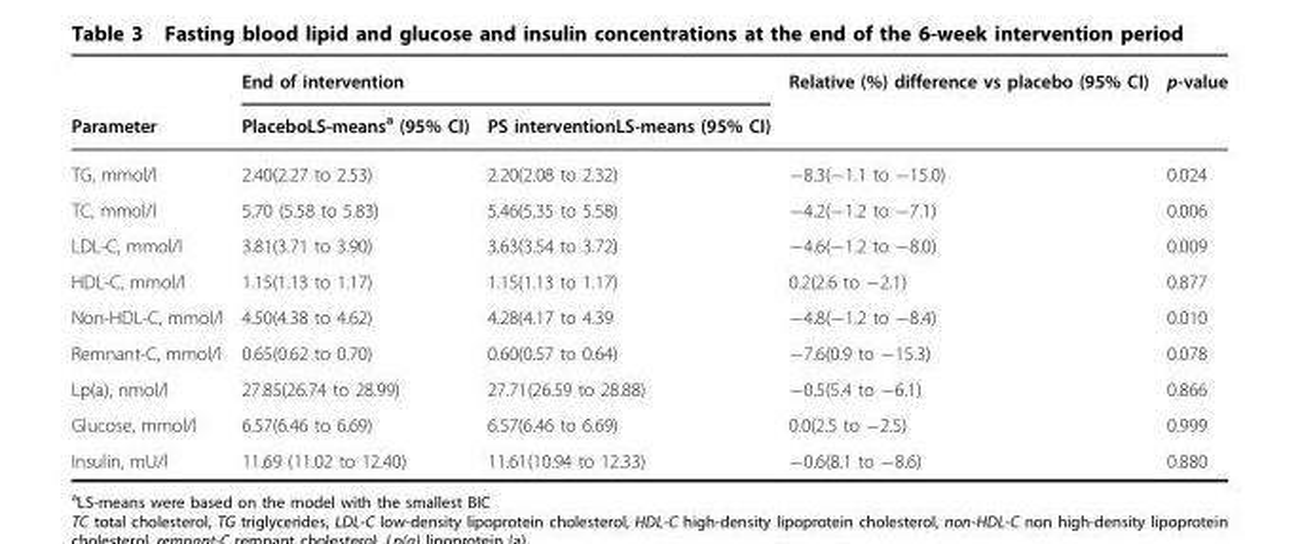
<table><thead><tr><td rowspan="2">Parameter</td><td colspan="2">End of intervention</td><td rowspan="2">Relative (%) difference vs placebo (95% CI)</td><td rowspan="2">p-value</td></tr><tr><td>PlaceboLS-means<sup>a</sup> (95% CI)</td><td>PS interventionLS-means (95% CI)</td></tr></thead><tbody><tr><td>TG, mmol/l</td><td>2.40(2.27 to 2.53)</td><td>2.20(2.08 to 2.32)</td><td>−8.3(−1.1 to −15.0)</td><td>0.024</td></tr><tr><td>TC, mmol/l</td><td>5.70 (5.58 to 5.83)</td><td>5.46(5.35 to 5.58)</td><td>−4.2(−1.2 to −7.1)</td><td>0.006</td></tr><tr><td>LDL-C, mmol/l</td><td>3.81(3.71 to 3.90)</td><td>3.63(3.54 to 3.72)</td><td>−4.6(−1.2 to −8.0)</td><td>0.009</td></tr><tr><td>HDL-C, mmol/l</td><td>1.15(1.13 to 1.17)</td><td>1.15(1.13 to 1.17)</td><td>0.2(2.6 to −2.1)</td><td>0.877</td></tr><tr><td>Non-HDL-C, mmol/l</td><td>4.50(4.38 to 4.62)</td><td>4.28(4.17 to 4.39</td><td>−4.8(−1.2 to −8.4)</td><td>0.010</td></tr><tr><td>Remnant-C, mmol/l</td><td>0.65(0.62 to 0.70)</td><td>0.60(0.57 to 0.64)</td><td>−7.6(0.9 to −15.3)</td><td>0.078</td></tr><tr><td>Lp(a), nmol/l</td><td>27.85(26.74 to 28.99)</td><td>27.71(26.59 to 28.88)</td><td>−0.5(5.4 to −6.1)</td><td>0.866</td></tr><tr><td>Glucose, mmol/l</td><td>6.57(6.46 to 6.69)</td><td>6.57(6.46 to 6.69)</td><td>0.0(2.5 to −2.5)</td><td>0.999</td></tr><tr><td>Insulin, mU/l</td><td>11.69 (11.02 to 12.40)</td><td>11.61(10.94 to 12.33)</td><td>−0.6(8.1 to −8.6)</td><td>0.880</td></tr></tbody></table>